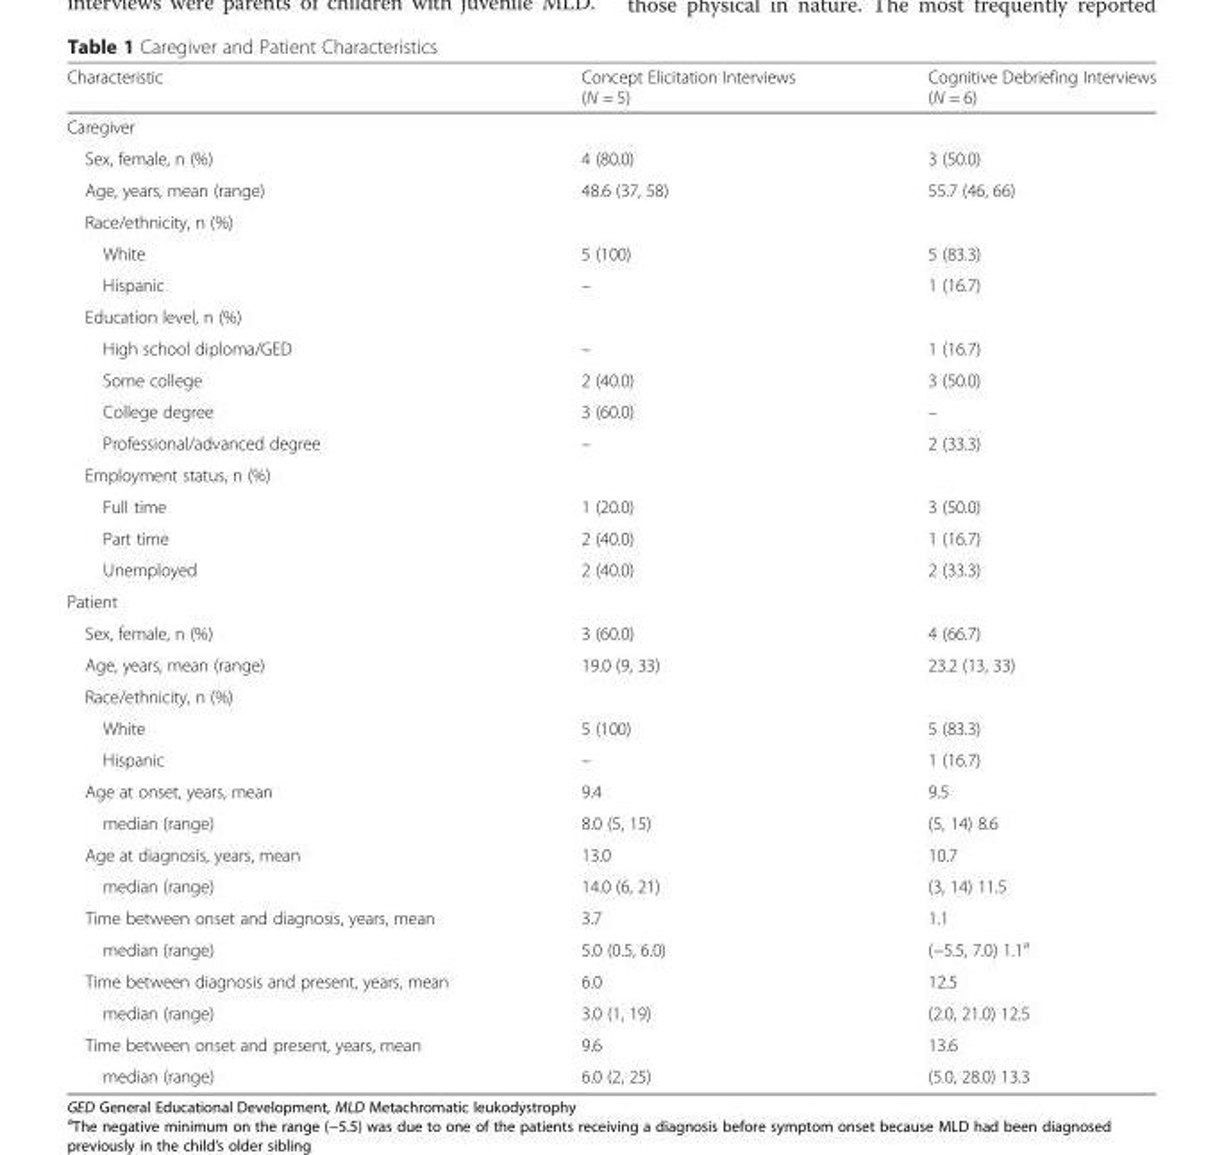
<table><thead><tr><td>Characteristic</td><td>Concept Elicitation Interviews (N = 5)</td><td>Cognitive Debriefing Interviews (N = 6)</td></tr></thead><tbody><tr><td colspan="3">Caregiver</td></tr><tr><td>Sex, female, n (%)</td><td>4 (80.0)</td><td>3 (50.0)</td></tr><tr><td>Age, years, mean (range)</td><td>48.6 (37, 58)</td><td>55.7 (46, 66)</td></tr><tr><td colspan="3">Race/ethnicity, n (%)</td></tr><tr><td>White</td><td>5 (100)</td><td>5 (83.3)</td></tr><tr><td>Hispanic</td><td>–</td><td>1 (16.7)</td></tr><tr><td colspan="3">Education level, n (%)</td></tr><tr><td>High school diploma/GED</td><td>–</td><td>1 (16.7)</td></tr><tr><td>Some college</td><td>2 (40.0)</td><td>3 (50.0)</td></tr><tr><td>College degree</td><td>3 (60.0)</td><td>–</td></tr><tr><td>Professional/advanced degree</td><td>–</td><td>2 (33.3)</td></tr><tr><td colspan="3">Employment status, n (%)</td></tr><tr><td>Full time</td><td>1 (20.0)</td><td>3 (50.0)</td></tr><tr><td>Part time</td><td>2 (40.0)</td><td>1 (16.7)</td></tr><tr><td>Unemployed</td><td>2 (40.0)</td><td>2 (33.3)</td></tr><tr><td colspan="3">Patient</td></tr><tr><td>Sex, female, n (%)</td><td>3 (60.0)</td><td>4 (66.7)</td></tr><tr><td>Age, years, mean (range)</td><td>19.0 (9, 33)</td><td>23.2 (13, 33)</td></tr><tr><td colspan="3">Race/ethnicity, n (%)</td></tr><tr><td>White</td><td>5 (100)</td><td>5 (83.3)</td></tr><tr><td>Hispanic</td><td>–</td><td>1 (16.7)</td></tr><tr><td>Age at onset, years, mean</td><td>9.4</td><td>9.5</td></tr><tr><td>median (range)</td><td>8.0 (5, 15)</td><td>(5, 14) 8.6</td></tr><tr><td>Age at diagnosis, years, mean</td><td>13.0</td><td>10.7</td></tr><tr><td>median (range)</td><td>14.0 (6, 21)</td><td>(3, 14) 11.5</td></tr><tr><td>Time between onset and diagnosis, years, mean</td><td>3.7</td><td>1.1</td></tr><tr><td>median (range)</td><td>5.0 (0.5, 6.0)</td><td>(−5.5, 7.0) 1.1<sup>a</sup></td></tr><tr><td>Time between diagnosis and present, years, mean</td><td>6.0</td><td>12.5</td></tr><tr><td>median (range)</td><td>3.0 (1, 19)</td><td>(2.0, 21.0) 12.5</td></tr><tr><td>Time between onset and present, years, mean</td><td>9.6</td><td>13.6</td></tr><tr><td>median (range)</td><td>6.0 (2, 25)</td><td>(5.0, 28.0) 13.3</td></tr></tbody></table>